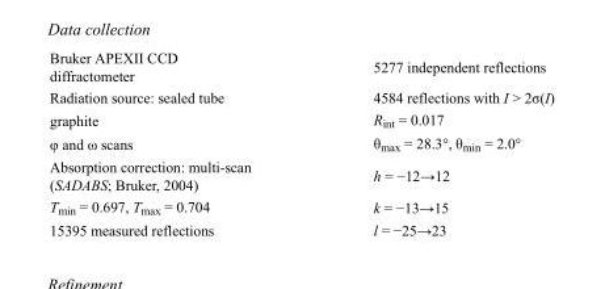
<table><tbody><tr><td>Bruker APEXII CCD diffractometer</td><td>5277 independent reflections</td></tr><tr><td>Radiation source: sealed tube</td><td>4584 reflections with I &gt; 2σ(I)</td></tr><tr><td>graphite</td><td>R<sub>int</sub> = 0.017</td></tr><tr><td>φ and ω scans</td><td>θ<sub>max</sub> = 28.3°, θ<sub>min</sub> = 2.0°</td></tr><tr><td>Absorption correction: multi-scan (SADABS; Bruker, 2004)</td><td>h = −12→12</td></tr><tr><td>T<sub>min</sub> = 0.697, T<sub>max</sub> = 0.704</td><td>k = −13→15</td></tr><tr><td>15395 measured reflections</td><td>l = −25→23</td></tr></tbody></table>